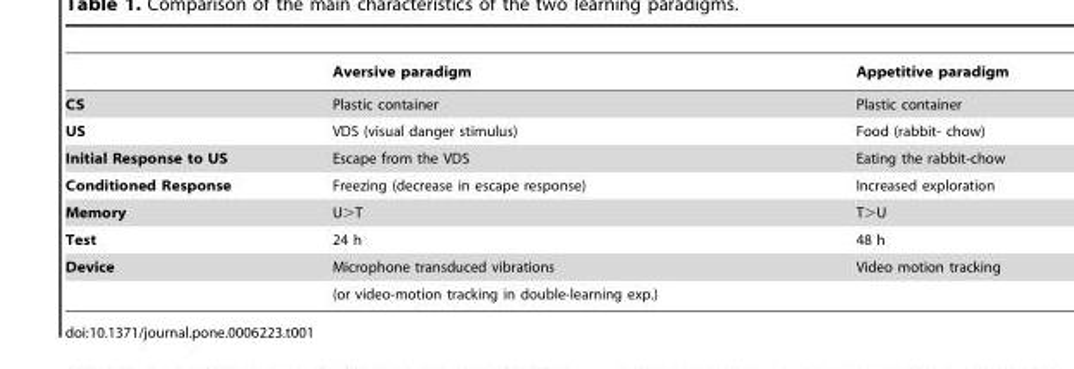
<table><thead><tr><td></td><td>Aversive paradigm</td><td>Appetitive paradigm</td></tr></thead><tbody><tr><td>CS</td><td>Plastic container</td><td>Plastic container</td></tr><tr><td>US</td><td>VDS (visual danger stimulus)</td><td>Food (rabbit- chow)</td></tr><tr><td>Initial Response to US</td><td>Escape from the VDS</td><td>Eating the rabbit-chow</td></tr><tr><td>Conditioned Response</td><td>Freezing (decrease in escape response)</td><td>Increased exploration</td></tr><tr><td>Memory</td><td>U&gt;T</td><td>T&gt;U</td></tr><tr><td>Test</td><td>24 h</td><td>48 h</td></tr><tr><td rowspan="2">Device</td><td>Microphone transduced vibrations</td><td>Video motion tracking</td></tr><tr><td>(or video-motion tracking in double-learning exp.)</td><td></td></tr></tbody></table>